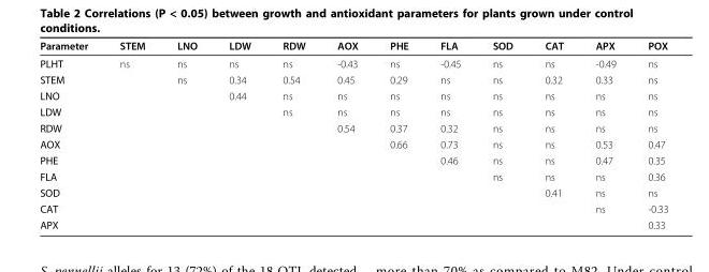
<table><thead><tr><td>Parameter</td><td>STEM</td><td>LNO</td><td>LDW</td><td>RDW</td><td>AOX</td><td>PHE</td><td>FLA</td><td>SOD</td><td>CAT</td><td>APX</td><td>POX</td></tr></thead><tbody><tr><td>PLHT</td><td>ns</td><td>ns</td><td>ns</td><td>ns</td><td>-0.43</td><td>ns</td><td>-0.45</td><td>ns</td><td>ns</td><td>-0.49</td><td>ns</td></tr><tr><td>STEM</td><td></td><td>ns</td><td>0.34</td><td>0.54</td><td>0.45</td><td>0.29</td><td>ns</td><td>ns</td><td>0.32</td><td>0.33</td><td>ns</td></tr><tr><td>LNO</td><td></td><td></td><td>0.44</td><td>ns</td><td>ns</td><td>ns</td><td>ns</td><td>ns</td><td>ns</td><td>ns</td><td>ns</td></tr><tr><td>LDW</td><td></td><td></td><td></td><td>ns</td><td>ns</td><td>ns</td><td>ns</td><td>ns</td><td>ns</td><td>ns</td><td>ns</td></tr><tr><td>RDW</td><td></td><td></td><td></td><td></td><td>0.54</td><td>0.37</td><td>0.32</td><td>ns</td><td>ns</td><td>ns</td><td>ns</td></tr><tr><td>AOX</td><td></td><td></td><td></td><td></td><td></td><td>0.66</td><td>0.73</td><td>ns</td><td>ns</td><td>0.53</td><td>0.47</td></tr><tr><td>PHE</td><td></td><td></td><td></td><td></td><td></td><td></td><td>0.46</td><td>ns</td><td>ns</td><td>0.47</td><td>0.35</td></tr><tr><td>FLA</td><td></td><td></td><td></td><td></td><td></td><td></td><td></td><td>ns</td><td>ns</td><td>ns</td><td>0.36</td></tr><tr><td>SOD</td><td></td><td></td><td></td><td></td><td></td><td></td><td></td><td></td><td>0.41</td><td>ns</td><td>ns</td></tr><tr><td>CAT</td><td></td><td></td><td></td><td></td><td></td><td></td><td></td><td></td><td></td><td>ns</td><td>-0.33</td></tr><tr><td>APX</td><td></td><td></td><td></td><td></td><td></td><td></td><td></td><td></td><td></td><td></td><td>0.33</td></tr></tbody></table>